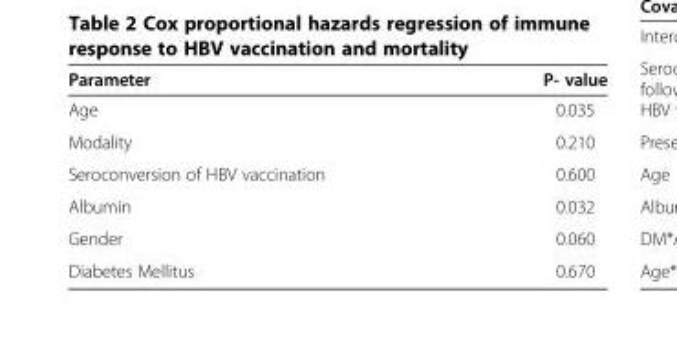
<table><thead><tr><td>Parameter</td><td>P- value</td></tr></thead><tbody><tr><td>Age</td><td>0.035</td></tr><tr><td>Modality</td><td>0.210</td></tr><tr><td>Seroconversion of HBV vaccination</td><td>0.600</td></tr><tr><td>Albumin</td><td>0.032</td></tr><tr><td>Gender</td><td>0.060</td></tr><tr><td>Diabetes Mellitus</td><td>0.670</td></tr></tbody></table>